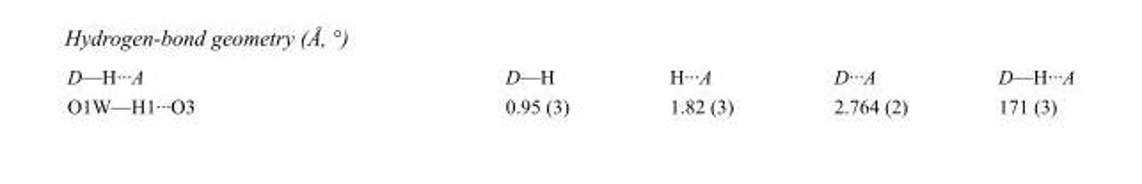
<table><tbody><tr><td>D—H···A</td><td>D—H</td><td>H···A</td><td>D···A</td><td>D—H···A</td></tr><tr><td>O1W—H1···O3</td><td>0.95 (3)</td><td>1.82 (3)</td><td>2.764 (2)</td><td>171 (3)</td></tr></tbody></table>